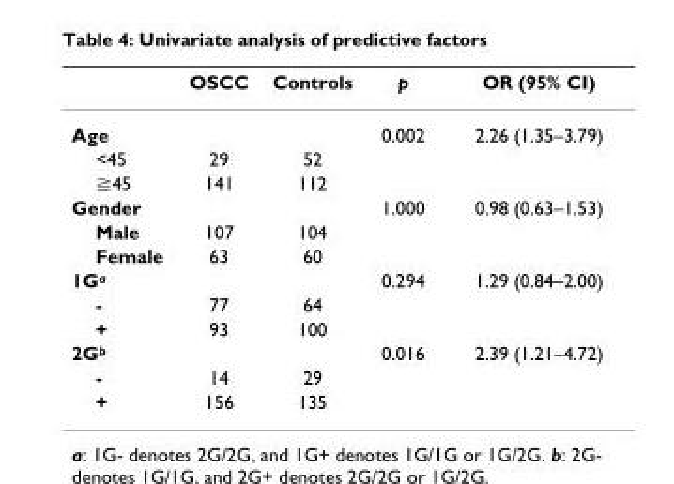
<table><thead><tr><td></td><td>OSCC</td><td>Controls</td><td>p</td><td>OR (95% CI)</td></tr></thead><tbody><tr><td>Age</td><td></td><td></td><td>0.002</td><td>2.26 (1.35–3.79)</td></tr><tr><td>&lt;45</td><td>29</td><td>52</td><td></td><td></td></tr><tr><td>≧45</td><td>141</td><td>112</td><td></td><td></td></tr><tr><td>Gender</td><td></td><td></td><td>1.000</td><td>0.98 (0.63–1.53)</td></tr><tr><td>Male</td><td>107</td><td>104</td><td></td><td></td></tr><tr><td>Female</td><td>63</td><td>60</td><td></td><td></td></tr><tr><td>1G<sup>a</sup></td><td></td><td></td><td>0.294</td><td>1.29 (0.84–2.00)</td></tr><tr><td>-</td><td>77</td><td>64</td><td></td><td></td></tr><tr><td>+</td><td>93</td><td>100</td><td></td><td></td></tr><tr><td>2G<sup>b</sup></td><td></td><td></td><td>0.016</td><td>2.39 (1.21–4.72)</td></tr><tr><td>-</td><td>14</td><td>29</td><td></td><td></td></tr><tr><td>+</td><td>156</td><td>135</td><td></td><td></td></tr></tbody></table>